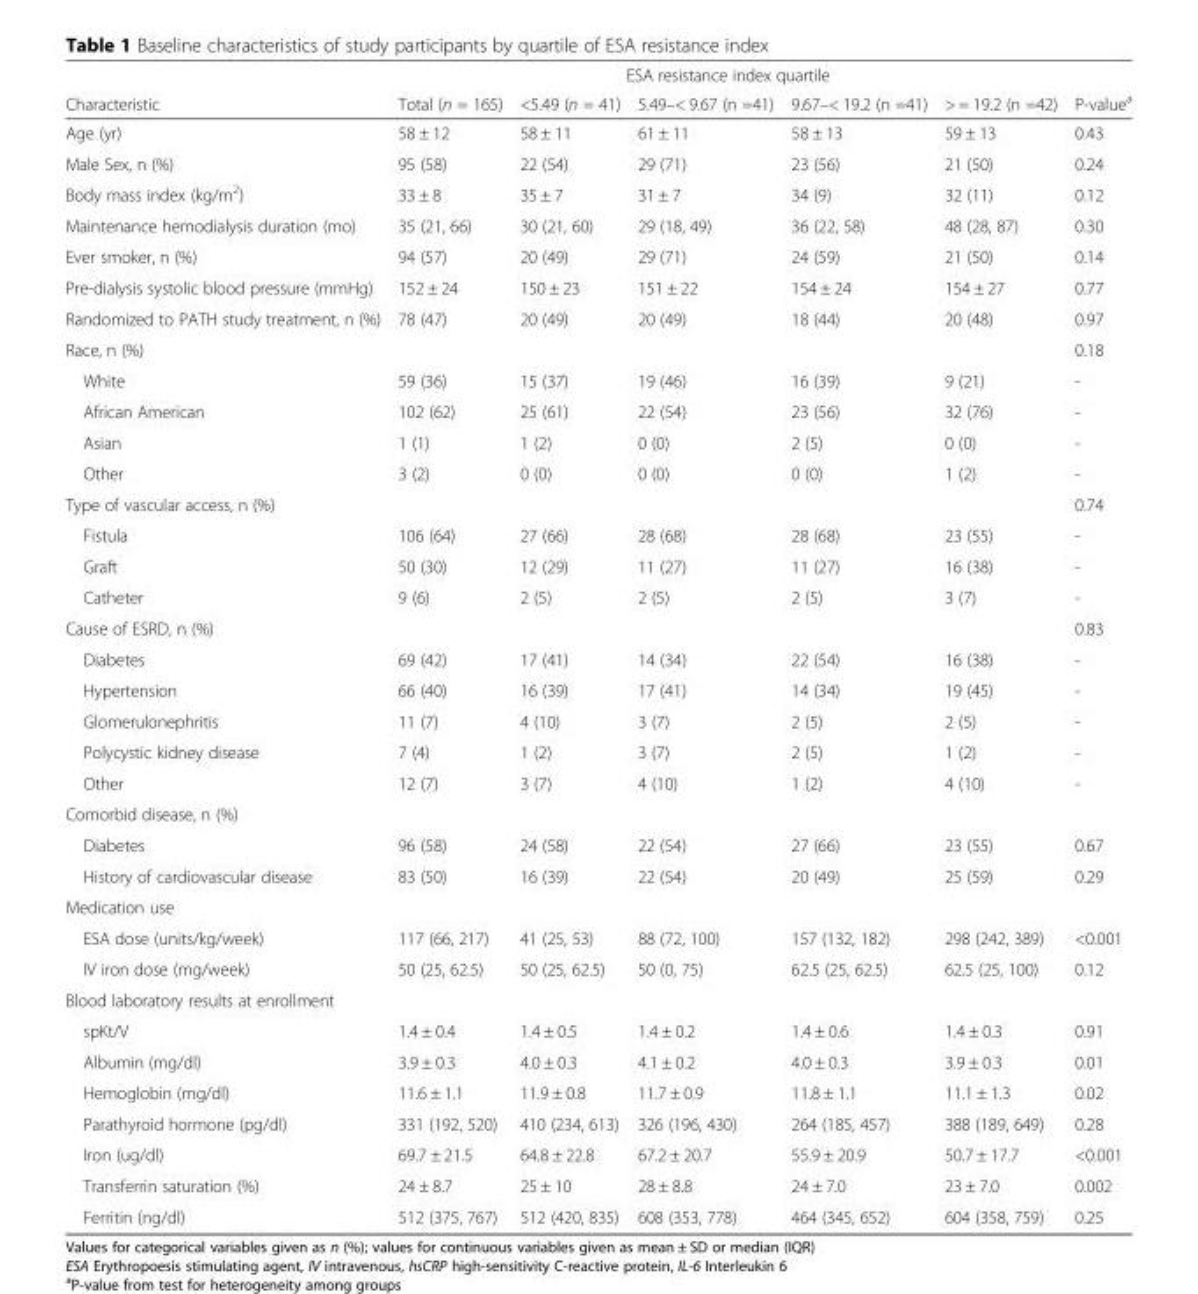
<table><thead><tr><td rowspan="2">Characteristic</td><td colspan="5">ESA resistance index quartile</td><td rowspan="2">P-value<sup>a</sup></td></tr><tr><td>Total (n = 165)</td><td>&lt;5.49 (n = 41)</td><td>5.49–&lt; 9.67 (n =41)</td><td>9.67–&lt; 19.2 (n =41)</td><td>&gt; = 19.2 (n =42)</td></tr></thead><tbody><tr><td>Age (yr)</td><td>58 ± 12</td><td>58 ± 11</td><td>61 ± 11</td><td>58 ± 13</td><td>59 ± 13</td><td>0.43</td></tr><tr><td>Male Sex, n (%)</td><td>95 (58)</td><td>22 (54)</td><td>29 (71)</td><td>23 (56)</td><td>21 (50)</td><td>0.24</td></tr><tr><td>Body mass index (kg/m<sup>2</sup>)</td><td>33 ± 8</td><td>35 ± 7</td><td>31 ± 7</td><td>34 (9)</td><td>32 (11)</td><td>0.12</td></tr><tr><td>Maintenance hemodialysis duration (mo)</td><td>35 (21, 66)</td><td>30 (21, 60)</td><td>29 (18, 49)</td><td>36 (22, 58)</td><td>48 (28, 87)</td><td>0.30</td></tr><tr><td>Ever smoker, n (%)</td><td>94 (57)</td><td>20 (49)</td><td>29 (71)</td><td>24 (59)</td><td>21 (50)</td><td>0.14</td></tr><tr><td>Pre-dialysis systolic blood pressure (mmHg)</td><td>152 ± 24</td><td>150 ± 23</td><td>151 ± 22</td><td>154 ± 24</td><td>154 ± 27</td><td>0.77</td></tr><tr><td>Randomized to PATH study treatment, n (%)</td><td>78 (47)</td><td>20 (49)</td><td>20 (49)</td><td>18 (44)</td><td>20 (48)</td><td>0.97</td></tr><tr><td>Race, n (%)</td><td></td><td></td><td></td><td></td><td></td><td>0.18</td></tr><tr><td>White</td><td>59 (36)</td><td>15 (37)</td><td>19 (46)</td><td>16 (39)</td><td>9 (21)</td><td>-</td></tr><tr><td>African American</td><td>102 (62)</td><td>25 (61)</td><td>22 (54)</td><td>23 (56)</td><td>32 (76)</td><td>-</td></tr><tr><td>Asian</td><td>1 (1)</td><td>1 (2)</td><td>0 (0)</td><td>2 (5)</td><td>0 (0)</td><td>-</td></tr><tr><td>Other</td><td>3 (2)</td><td>0 (0)</td><td>0 (0)</td><td>0 (0)</td><td>1 (2)</td><td>-</td></tr><tr><td>Type of vascular access, n (%)</td><td></td><td></td><td></td><td></td><td></td><td>0.74</td></tr><tr><td>Fistula</td><td>106 (64)</td><td>27 (66)</td><td>28 (68)</td><td>28 (68)</td><td>23 (55)</td><td>-</td></tr><tr><td>Graft</td><td>50 (30)</td><td>12 (29)</td><td>11 (27)</td><td>11 (27)</td><td>16 (38)</td><td>-</td></tr><tr><td>Catheter</td><td>9 (6)</td><td>2 (5)</td><td>2 (5)</td><td>2 (5)</td><td>3 (7)</td><td>-</td></tr><tr><td>Cause of ESRD, n (%)</td><td></td><td></td><td></td><td></td><td></td><td>0.83</td></tr><tr><td>Diabetes</td><td>69 (42)</td><td>17 (41)</td><td>14 (34)</td><td>22 (54)</td><td>16 (38)</td><td>-</td></tr><tr><td>Hypertension</td><td>66 (40)</td><td>16 (39)</td><td>17 (41)</td><td>14 (34)</td><td>19 (45)</td><td>-</td></tr><tr><td>Glomerulonephritis</td><td>11 (7)</td><td>4 (10)</td><td>3 (7)</td><td>2 (5)</td><td>2 (5)</td><td>-</td></tr><tr><td>Polycystic kidney disease</td><td>7 (4)</td><td>1 (2)</td><td>3 (7)</td><td>2 (5)</td><td>1 (2)</td><td>-</td></tr><tr><td>Other</td><td>12 (7)</td><td>3 (7)</td><td>4 (10)</td><td>1 (2)</td><td>4 (10)</td><td>-</td></tr><tr><td colspan="7">Comorbid disease, n (%)</td></tr><tr><td>Diabetes</td><td>96 (58)</td><td>24 (58)</td><td>22 (54)</td><td>27 (66)</td><td>23 (55)</td><td>0.67</td></tr><tr><td>History of cardiovascular disease</td><td>83 (50)</td><td>16 (39)</td><td>22 (54)</td><td>20 (49)</td><td>25 (59)</td><td>0.29</td></tr><tr><td colspan="7">Medication use</td></tr><tr><td>ESA dose (units/kg/week)</td><td>117 (66, 217)</td><td>41 (25, 53)</td><td>88 (72, 100)</td><td>157 (132, 182)</td><td>298 (242, 389)</td><td>&lt;0.001</td></tr><tr><td>IV iron dose (mg/week)</td><td>50 (25, 62.5)</td><td>50 (25, 62.5)</td><td>50 (0, 75)</td><td>62.5 (25, 62.5)</td><td>62.5 (25, 100)</td><td>0.12</td></tr><tr><td colspan="7">Blood laboratory results at enrollment</td></tr><tr><td>spKt/V</td><td>1.4 ± 0.4</td><td>1.4 ± 0.5</td><td>1.4 ± 0.2</td><td>1.4 ± 0.6</td><td>1.4 ± 0.3</td><td>0.91</td></tr><tr><td>Albumin (mg/dl)</td><td>3.9 ± 0.3</td><td>4.0 ± 0.3</td><td>4.1 ± 0.2</td><td>4.0 ± 0.3</td><td>3.9 ± 0.3</td><td>0.01</td></tr><tr><td>Hemoglobin (mg/dl)</td><td>11.6 ± 1.1</td><td>11.9 ± 0.8</td><td>11.7 ± 0.9</td><td>11.8 ± 1.1</td><td>11.1 ± 1.3</td><td>0.02</td></tr><tr><td>Parathyroid hormone (pg/dl)</td><td>331 (192, 520)</td><td>410 (234, 613)</td><td>326 (196, 430)</td><td>264 (185, 457)</td><td>388 (189, 649)</td><td>0.28</td></tr><tr><td>Iron (ug/dl)</td><td>69.7 ± 21.5</td><td>64.8 ± 22.8</td><td>67.2 ± 20.7</td><td>55.9 ± 20.9</td><td>50.7 ± 17.7</td><td>&lt;0.001</td></tr><tr><td>Transferrin saturation (%)</td><td>24 ± 8.7</td><td>25 ± 10</td><td>28 ± 8.8</td><td>24 ± 7.0</td><td>23 ± 7.0</td><td>0.002</td></tr><tr><td>Ferritin (ng/dl)</td><td>512 (375, 767)</td><td>512 (420, 835)</td><td>608 (353, 778)</td><td>464 (345, 652)</td><td>604 (358, 759)</td><td>0.25</td></tr></tbody></table>